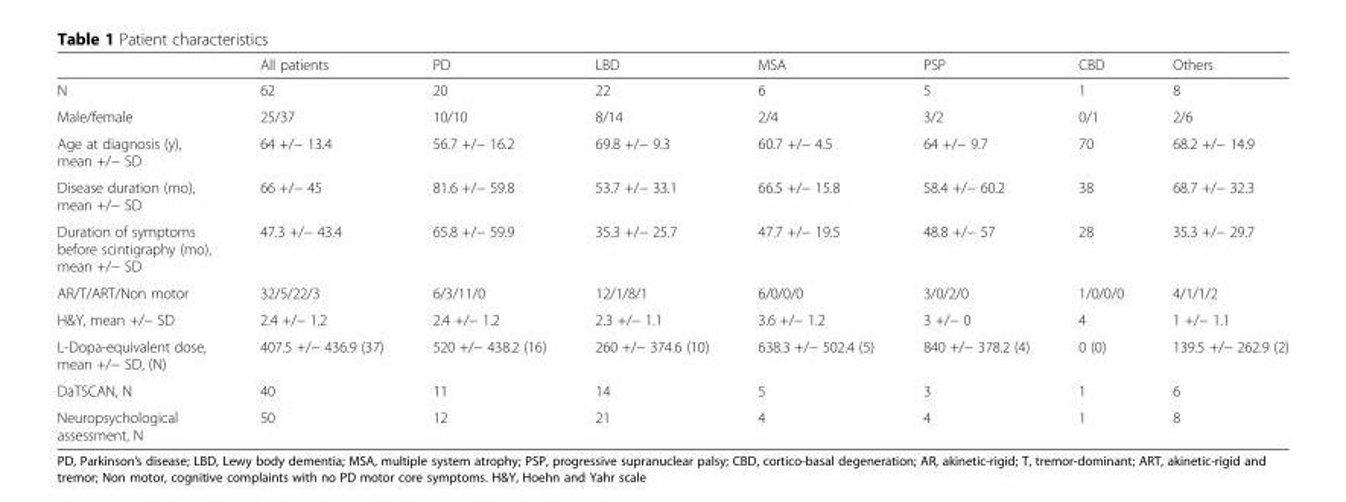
<table><thead><tr><td></td><td>All patients</td><td>PD</td><td>LBD</td><td>MSA</td><td>PSP</td><td>CBD</td><td>Others</td></tr></thead><tbody><tr><td>N</td><td>62</td><td>20</td><td>22</td><td>6</td><td>5</td><td>1</td><td>8</td></tr><tr><td>Male/female</td><td>25/37</td><td>10/10</td><td>8/14</td><td>2/4</td><td>3/2</td><td>0/1</td><td>2/6</td></tr><tr><td>Age at diagnosis (y), mean +/− SD</td><td>64 +/− 13.4</td><td>56.7 +/− 16.2</td><td>69.8 +/− 9.3</td><td>60.7 +/− 4.5</td><td>64 +/− 9.7</td><td>70</td><td>68.2 +/− 14.9</td></tr><tr><td>Disease duration (mo), mean +/− SD</td><td>66 +/− 45</td><td>81.6 +/− 59.8</td><td>53.7 +/− 33.1</td><td>66.5 +/− 15.8</td><td>58.4 +/− 60.2</td><td>38</td><td>68.7 +/− 32.3</td></tr><tr><td>Duration of symptoms before scintigraphy (mo), mean +/− SD</td><td>47.3 +/− 43.4</td><td>65.8 +/− 59.9</td><td>35.3 +/− 25.7</td><td>47.7 +/− 19.5</td><td>48.8 +/− 57</td><td>28</td><td>35.3 +/− 29.7</td></tr><tr><td>AR/T/ART/Non motor</td><td>32/5/22/3</td><td>6/3/11/0</td><td>12/1/8/1</td><td>6/0/0/0</td><td>3/0/2/0</td><td>1/0/0/0</td><td>4/1/1/2</td></tr><tr><td>H&amp;Y, mean +/− SD</td><td>2.4 +/− 1.2</td><td>2.4 +/− 1.2</td><td>2.3 +/− 1.1</td><td>3.6 +/− 1.2</td><td>3 +/− 0</td><td>4</td><td>1 +/− 1.1</td></tr><tr><td>L-Dopa-equivalent dose, mean +/− SD, (N)</td><td>407.5 +/− 436.9 (37)</td><td>520 +/− 438.2 (16)</td><td>260 +/− 374.6 (10)</td><td>638.3 +/− 502.4 (5)</td><td>840 +/− 378.2 (4)</td><td>0 (0)</td><td>139.5 +/− 262.9 (2)</td></tr><tr><td>DaTSCAN, N</td><td>40</td><td>11</td><td>14</td><td>5</td><td>3</td><td>1</td><td>6</td></tr><tr><td>Neuropsychological assessment, N</td><td>50</td><td>12</td><td>21</td><td>4</td><td>4</td><td>1</td><td>8</td></tr></tbody></table>